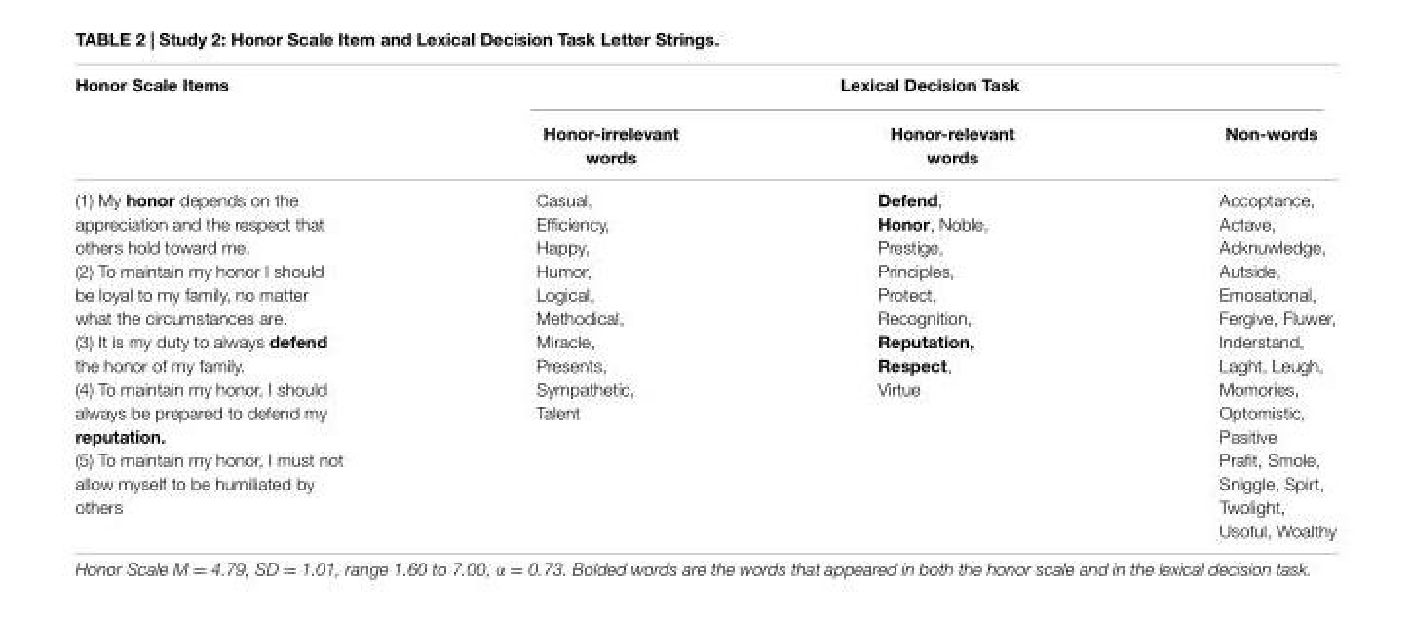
<table><thead><tr><td rowspan="2">Honor Scale Items</td><td colspan="3">Lexical Decision Task</td></tr><tr><td>Honor-irrelevant words</td><td>Honor-relevant words</td><td>Non-words</td></tr></thead><tbody><tr><td>(1) My honor depends on the appreciation and the respect that others hold toward me. (2) To maintain my honor I should be loyal to my family, no matter what the circumstances are. (3) It is my duty to always defend the honor of my family. (4) To maintain my honor, I should always be prepared to defend my reputation. (5) To maintain my honor, I must not allow myself to be humiliated by others</td><td>Casual, Efficiency, Happy, Humor, Logical, Methodical, Miracle, Presents, Sympathetic, Talent</td><td>Defend, Honor, Noble, Prestige, Principles, Protect, Recognition, Reputation, Respect, Virtue</td><td>Accoptance, Actave, Acknuwledge, Autside, Emosational, Fergive, Fluwer, Inderstand, Laght, Leugh, Momories, Optomistic, Pasitive Prafit, Smole, Sniggle, Spirt, Twolight, Usoful, Woalthy</td></tr></tbody></table>